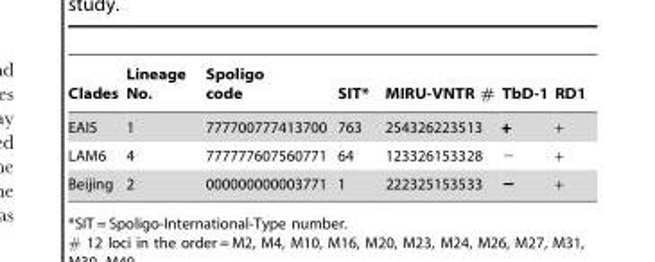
<table><thead><tr><td>Clades</td><td>Lineage No.</td><td>Spoligo code</td><td>SIT*</td><td>MIRU-VNTR #</td><td>TbD-1</td><td>RD1</td></tr></thead><tbody><tr><td>EAI5</td><td>1</td><td>777700777413700</td><td>763</td><td>254326223513</td><td>+</td><td>+</td></tr><tr><td>LAM6</td><td>4</td><td>777777607560771</td><td>64</td><td>123326153328</td><td>−</td><td>+</td></tr><tr><td>Beijing</td><td>2</td><td>000000000003771</td><td>1</td><td>222325153533</td><td>−</td><td>+</td></tr></tbody></table>